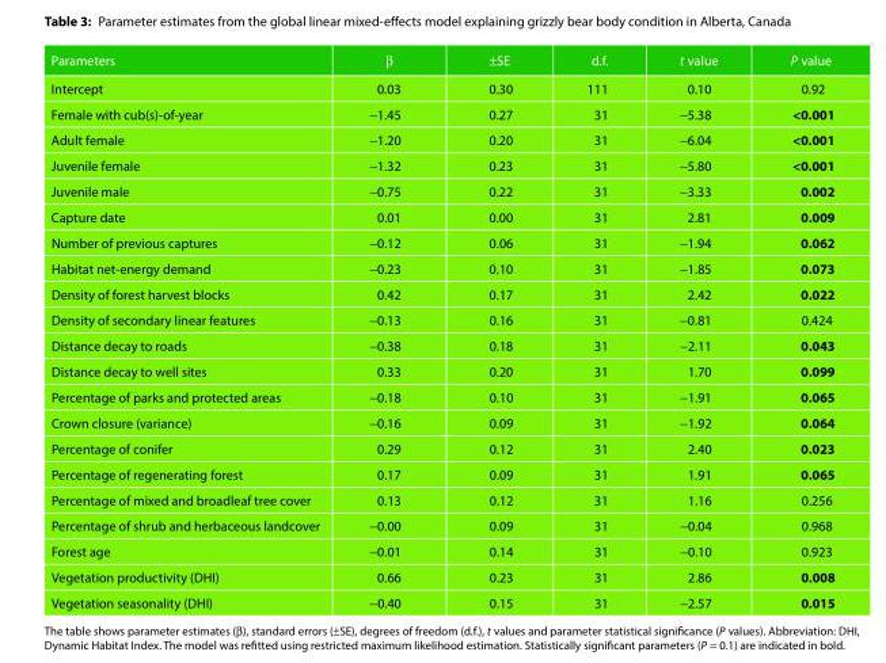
<table><thead><tr><td>Parameters</td><td>β</td><td>±SE</td><td>d.f.</td><td>t value</td><td>P value</td></tr></thead><tbody><tr><td>Intercept</td><td>0.03</td><td>0.30</td><td>111</td><td>0.10</td><td>0.92</td></tr><tr><td>Female with cub(s)-of-year</td><td>−1.45</td><td>0.27</td><td>31</td><td>−5.38</td><td>&lt;0.001</td></tr><tr><td>Adult female</td><td>−1.20</td><td>0.20</td><td>31</td><td>−6.04</td><td>&lt;0.001</td></tr><tr><td>Juvenile female</td><td>−1.32</td><td>0.23</td><td>31</td><td>−5.80</td><td>&lt;0.001</td></tr><tr><td>Juvenile male</td><td>−0.75</td><td>0.22</td><td>31</td><td>−3.33</td><td>0.002</td></tr><tr><td>Capture date</td><td>0.01</td><td>0.00</td><td>31</td><td>2.81</td><td>0.009</td></tr><tr><td>Number of previous captures</td><td>−0.12</td><td>0.06</td><td>31</td><td>−1.94</td><td>0.062</td></tr><tr><td>Habitat net-energy demand</td><td>−0.23</td><td>0.10</td><td>31</td><td>−1.85</td><td>0.073</td></tr><tr><td>Density of forest harvest blocks</td><td>0.42</td><td>0.17</td><td>31</td><td>2.42</td><td>0.022</td></tr><tr><td>Density of secondary linear features</td><td>−0.13</td><td>0.16</td><td>31</td><td>−0.81</td><td>0.424</td></tr><tr><td>Distance decay to roads</td><td>−0.38</td><td>0.18</td><td>31</td><td>−2.11</td><td>0.043</td></tr><tr><td>Distance decay to well sites</td><td>0.33</td><td>0.20</td><td>31</td><td>1.70</td><td>0.099</td></tr><tr><td>Percentage of parks and protected areas</td><td>−0.18</td><td>0.10</td><td>31</td><td>−1.91</td><td>0.065</td></tr><tr><td>Crown closure (variance)</td><td>−0.16</td><td>0.09</td><td>31</td><td>−1.92</td><td>0.064</td></tr><tr><td>Percentage of conifer</td><td>0.29</td><td>0.12</td><td>31</td><td>2.40</td><td>0.023</td></tr><tr><td>Percentage of regenerating forest</td><td>0.17</td><td>0.09</td><td>31</td><td>1.91</td><td>0.065</td></tr><tr><td>Percentage of mixed and broadleaf tree cover</td><td>0.13</td><td>0.12</td><td>31</td><td>1.16</td><td>0.256</td></tr><tr><td>Percentage of shrub and herbaceous landcover</td><td>−0.00</td><td>0.09</td><td>31</td><td>−0.04</td><td>0.968</td></tr><tr><td>Forest age</td><td>−0.01</td><td>0.14</td><td>31</td><td>−0.10</td><td>0.923</td></tr><tr><td>Vegetation productivity (DHI)</td><td>0.66</td><td>0.23</td><td>31</td><td>2.86</td><td>0.008</td></tr><tr><td>Vegetation seasonality (DHI)</td><td>−0.40</td><td>0.15</td><td>31</td><td>−2.57</td><td>0.015</td></tr></tbody></table>